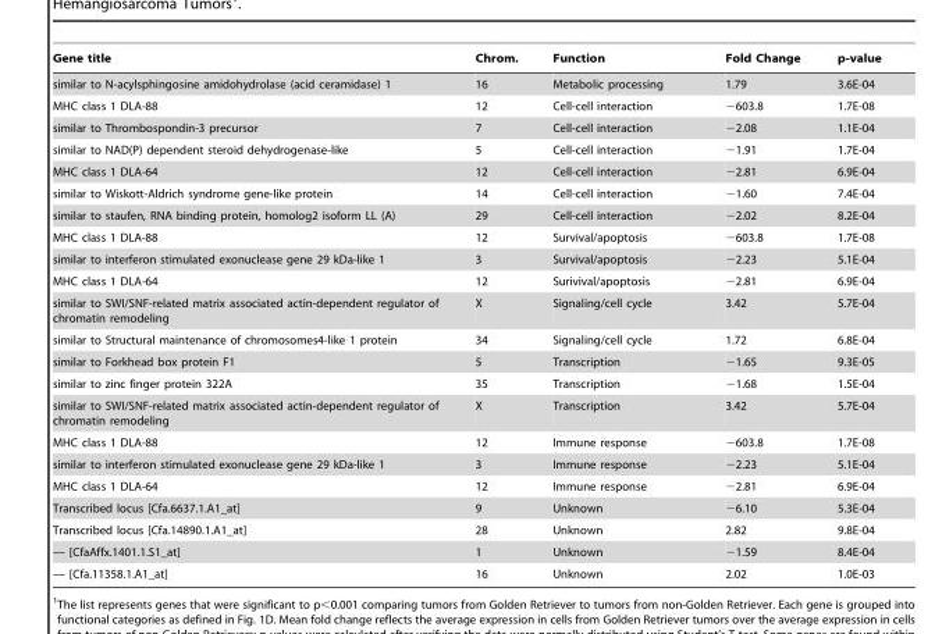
<table><thead><tr><td>Gene title</td><td>Chrom.</td><td>Function</td><td>Fold Change</td><td>p-value</td></tr></thead><tbody><tr><td>similar to N-acylsphingosine amidohydrolase (acid ceramidase) 1</td><td>16</td><td>Metabolic processing</td><td>1.79</td><td>3.6E-04</td></tr><tr><td>MHC class 1 DLA-88</td><td>12</td><td>Cell-cell interaction</td><td>−603.8</td><td>1.7E-08</td></tr><tr><td>similar to Thrombospondin-3 precursor</td><td>7</td><td>Cell-cell interaction</td><td>−2.08</td><td>1.1E-04</td></tr><tr><td>similar to NAD(P) dependent steroid dehydrogenase-like</td><td>5</td><td>Cell-cell interaction</td><td>−1.91</td><td>1.7E-04</td></tr><tr><td>MHC class 1 DLA-64</td><td>12</td><td>Cell-cell interaction</td><td>−2.81</td><td>6.9E-04</td></tr><tr><td>similar to Wiskott-Aldrich syndrome gene-like protein</td><td>14</td><td>Cell-cell interaction</td><td>−1.60</td><td>7.4E-04</td></tr><tr><td>similar to staufen, RNA binding protein, homolog2 isoform LL (A)</td><td>29</td><td>Cell-cell interaction</td><td>−2.02</td><td>8.2E-04</td></tr><tr><td>MHC class 1 DLA-88</td><td>12</td><td>Survival/apoptosis</td><td>−603.8</td><td>1.7E-08</td></tr><tr><td>similar to interferon stimulated exonuclease gene 29 kDa-like 1</td><td>3</td><td>Survival/apoptosis</td><td>−2.23</td><td>5.1E-04</td></tr><tr><td>MHC class 1 DLA-64</td><td>12</td><td>Surivival/apoptosis</td><td>−2.81</td><td>6.9E-04</td></tr><tr><td>similar to SWI/SNF-related matrix associated actin-dependent regulator of chromatin remodeling</td><td>X</td><td>Signaling/cell cycle</td><td>3.42</td><td>5.7E-04</td></tr><tr><td>similar to Structural maintenance of chromosomes4-like 1 protein</td><td>34</td><td>Signaling/cell cycle</td><td>1.72</td><td>6.8E-04</td></tr><tr><td>similar to Forkhead box protein F1</td><td>5</td><td>Transcription</td><td>−1.65</td><td>9.3E-05</td></tr><tr><td>similar to zinc finger protein 322A</td><td>35</td><td>Transcription</td><td>−1.68</td><td>1.5E-04</td></tr><tr><td>similar to SWI/SNF-related matrix associated actin-dependent regulator of chromatin remodeling</td><td>X</td><td>Transcription</td><td>3.42</td><td>5.7E-04</td></tr><tr><td>MHC class 1 DLA-88</td><td>12</td><td>Immune response</td><td>−603.8</td><td>1.7E-08</td></tr><tr><td>similar to interferon stimulated exonuclease gene 29 kDa-like 1</td><td>3</td><td>Immune response</td><td>−2.23</td><td>5.1E-04</td></tr><tr><td>MHC class 1 DLA-64</td><td>12</td><td>Immune response</td><td>−2.81</td><td>6.9E-04</td></tr><tr><td>Transcribed locus [Cfa.6637.1.A1_at]</td><td>9</td><td>Unknown</td><td>−6.10</td><td>5.3E-04</td></tr><tr><td>Transcribed locus [Cfa.14890.1.A1_at]</td><td>28</td><td>Unknown</td><td>2.82</td><td>9.8E-04</td></tr><tr><td>— [CfaAffx.1401.1.S1_at]</td><td>1</td><td>Unknown</td><td>−1.59</td><td>8.4E-04</td></tr><tr><td>— [Cfa.11358.1.A1_at]</td><td>16</td><td>Unknown</td><td>2.02</td><td>1.0E-03</td></tr></tbody></table>